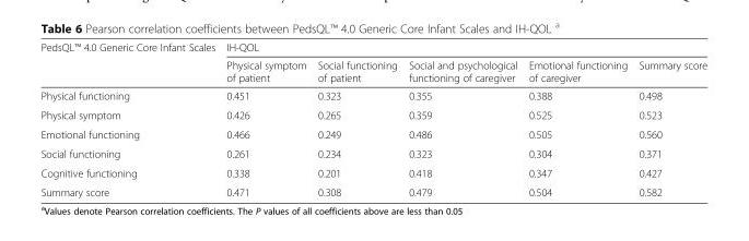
<table><thead><tr><td rowspan="2">PedsQL™ 4.0 Generic Core Infant Scales</td><td colspan="5">IH-QOL</td></tr><tr><td>Physical symptom of patient</td><td>Social functioning of patient</td><td>Social and psychological functioning of caregiver</td><td>Emotional functioning of caregiver</td><td>Summary score</td></tr></thead><tbody><tr><td>Physical functioning</td><td>0.451</td><td>0.323</td><td>0.355</td><td>0.388</td><td>0.498</td></tr><tr><td>Physical symptom</td><td>0.426</td><td>0.265</td><td>0.359</td><td>0.525</td><td>0.523</td></tr><tr><td>Emotional functioning</td><td>0.466</td><td>0.249</td><td>0.486</td><td>0.505</td><td>0.560</td></tr><tr><td>Social functioning</td><td>0.261</td><td>0.234</td><td>0.323</td><td>0.304</td><td>0.371</td></tr><tr><td>Cognitive functioning</td><td>0.338</td><td>0.201</td><td>0.418</td><td>0.347</td><td>0.427</td></tr><tr><td>Summary score</td><td>0.471</td><td>0.308</td><td>0.479</td><td>0.504</td><td>0.582</td></tr></tbody></table>